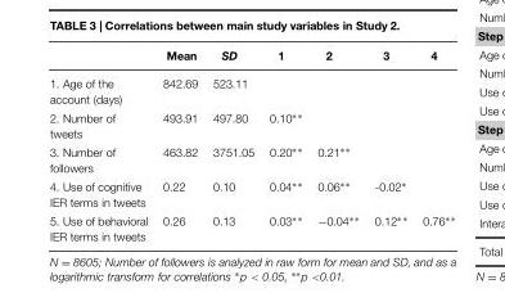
<table><thead><tr><td></td><td>Mean</td><td>SD</td><td>1</td><td>2</td><td>3</td><td>4</td></tr></thead><tbody><tr><td>1. Age of the account (days)</td><td>842.69</td><td>523.11</td><td></td><td></td><td></td><td></td></tr><tr><td>2. Number of tweets</td><td>493.91</td><td>497.80</td><td>0.10∗∗</td><td></td><td></td><td></td></tr><tr><td>3. Number of followers</td><td>463.82</td><td>3751.05</td><td>0.20∗∗</td><td>0.21∗∗</td><td></td><td></td></tr><tr><td>4. Use of cognitive IER terms in tweets</td><td>0.22</td><td>0.10</td><td>0.04∗∗</td><td>0.06∗∗</td><td>-0.02∗</td><td></td></tr><tr><td>5. Use of behavioral IER terms in tweets</td><td>0.26</td><td>0.13</td><td>0.03∗∗</td><td>−0.04∗∗</td><td>0.12∗∗</td><td>0.76∗∗</td></tr></tbody></table>